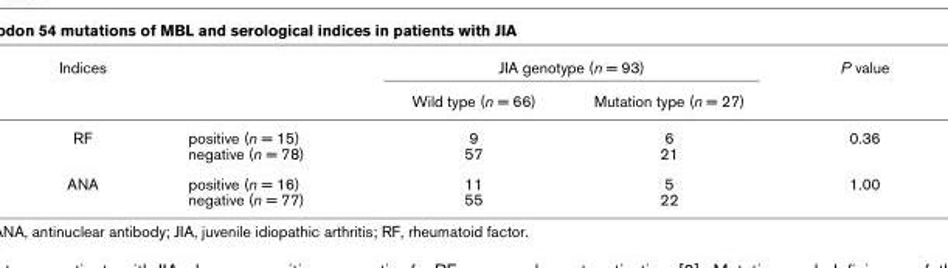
<table><thead><tr><td rowspan="2">Indices</td><td rowspan="2"></td><td colspan="2">JIA genotype (n = 93)</td><td rowspan="2">P value</td></tr><tr><td>Wild type (n = 66)</td><td>Mutation type (n = 27)</td></tr></thead><tbody><tr><td>RF</td><td>positive (n = 15) negative (n = 78)</td><td>9 57</td><td>6 21</td><td>0.36</td></tr><tr><td>ANA</td><td>positive (n = 16) negative (n = 77)</td><td>11 55</td><td>5 22</td><td>1.00</td></tr></tbody></table>